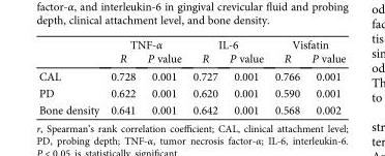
<table><thead><tr><td rowspan="2"></td><td colspan="2">TNF-α</td><td colspan="2">IL-6</td><td colspan="2">Visfatin</td></tr><tr><td>R</td><td>P value</td><td>R</td><td>P value</td><td>R</td><td>P value</td></tr></thead><tbody><tr><td>CAL</td><td>0.728</td><td>0.001</td><td>0.727</td><td>0.001</td><td>0.766</td><td>0.001</td></tr><tr><td>PD</td><td>0.622</td><td>0.001</td><td>0.620</td><td>0.001</td><td>0.590</td><td>0.001</td></tr><tr><td>Bone density</td><td>0.641</td><td>0.001</td><td>0.642</td><td>0.001</td><td>0.568</td><td>0.002</td></tr></tbody></table>